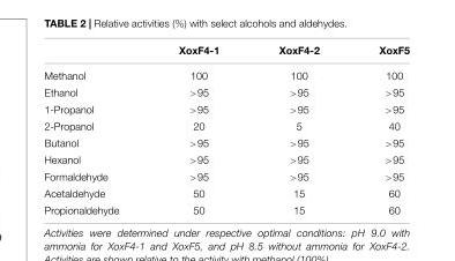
<table><thead><tr><td></td><td>XoxF4-1</td><td>XoxF4-2</td><td>XoxF5</td></tr></thead><tbody><tr><td>Methanol</td><td>100</td><td>100</td><td>100</td></tr><tr><td>Ethanol</td><td>&gt;95</td><td>&gt;95</td><td>&gt;95</td></tr><tr><td>1-Propanol</td><td>&gt;95</td><td>&gt;95</td><td>&gt;95</td></tr><tr><td>2-Propanol</td><td>20</td><td>5</td><td>40</td></tr><tr><td>Butanol</td><td>&gt;95</td><td>&gt;95</td><td>&gt;95</td></tr><tr><td>Hexanol</td><td>&gt;95</td><td>&gt;95</td><td>&gt;95</td></tr><tr><td>Formaldehyde</td><td>&gt;95</td><td>&gt;95</td><td>&gt;95</td></tr><tr><td>Acetaldehyde</td><td>50</td><td>15</td><td>60</td></tr><tr><td>Propionaldehyde</td><td>50</td><td>15</td><td>60</td></tr></tbody></table>